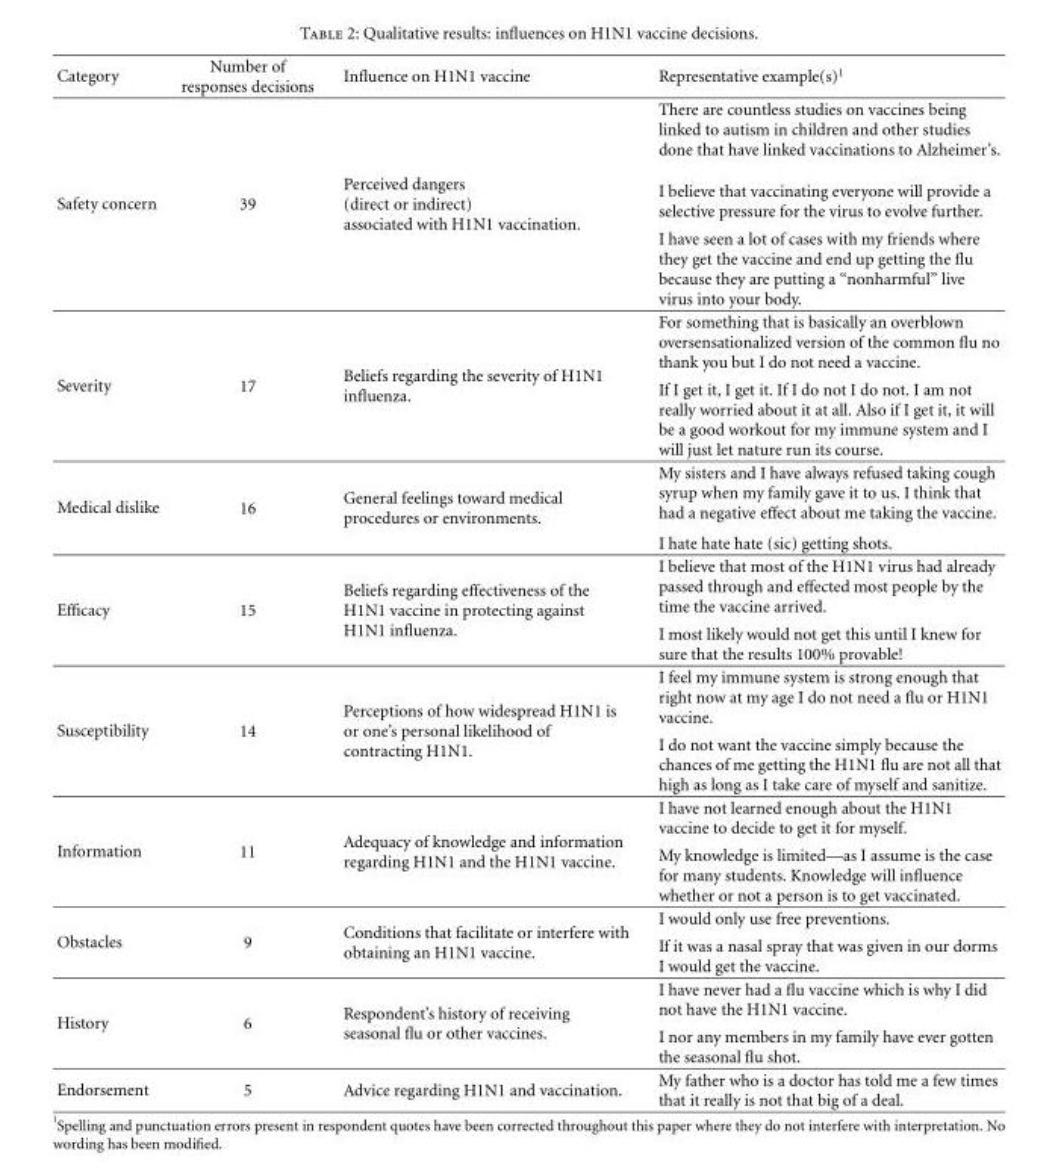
<table><thead><tr><td>Category</td><td>Number of responses decisions</td><td>Influence on H1N1 vaccine</td><td>Representative example(s)<sup>1</sup></td></tr></thead><tbody><tr><td>Safety concern</td><td>39</td><td>Perceived dangers (direct or indirect) associated with H1N1 vaccination.</td><td>There are countless studies on vaccines being linked to autism in children and other studies done that have linked vaccinations to Alzheimer’s. I believe that vaccinating everyone will provide a selective pressure for the virus to evolve further. I have seen a lot of cases with my friends where they get the vaccine and end up getting the flu because they are putting a “nonharmful” live virus into your body.</td></tr><tr><td>Severity</td><td>17</td><td>Beliefs regarding the severity of H1N1 influenza.</td><td>For something that is basically an overblown oversensationalized version of the common flu no thank you but I do not need a vaccine. If I get it, I get it. If I do not I do not. I am not really worried about it at all. Also if I get it, it will be a good workout for my immune system and I will just let nature run its course.</td></tr><tr><td>Medical dislike</td><td>16</td><td>General feelings toward medical procedures or environments.</td><td>My sisters and I have always refused taking cough syrup when my family gave it to us. I think that had a negative effect about me taking the vaccine. I hate hate hate (sic) getting shots.</td></tr><tr><td>Efficacy</td><td>15</td><td>Beliefs regarding effectiveness of the H1N1 vaccine in protecting against H1N1 influenza.</td><td>I believe that most of the H1N1 virus had already passed through and effected most people by the time the vaccine arrived. I most likely would not get this until I knew for sure that the results 100% provable!</td></tr><tr><td>Susceptibility</td><td>14</td><td>Perceptions of how widespread H1N1 is or one’s personal likelihood of contracting H1N1.</td><td>I feel my immune system is strong enough that right now at my age I do not need a flu or H1N1 vaccine. I do not want the vaccine simply because the chances of me getting the H1N1 flu are not all that high as long as I take care of myself and sanitize.</td></tr><tr><td>Information</td><td>11</td><td>Adequacy of knowledge and information regarding H1N1 and the H1N1 vaccine.</td><td>I have not learned enough about the H1N1 vaccine to decide to get it for myself. My knowledge is limited—as I assume is the case for many students. Knowledge will influence whether or not a person is to get vaccinated.</td></tr><tr><td>Obstacles</td><td>9</td><td>Conditions that facilitate or interfere with obtaining an H1N1 vaccine.</td><td>I would only use free preventions. If it was a nasal spray that was given in our dorms I would get the vaccine.</td></tr><tr><td>History</td><td>6</td><td>Respondent’s history of receiving seasonal flu or other vaccines.</td><td>I have never had a flu vaccine which is why I did not have the H1N1 vaccine. I nor any members in my family have ever gotten the seasonal flu shot.</td></tr><tr><td>Endorsement</td><td>5</td><td>Advice regarding H1N1 and vaccination.</td><td>My father who is a doctor has told me a few times that it really is not that big of a deal.</td></tr></tbody></table>